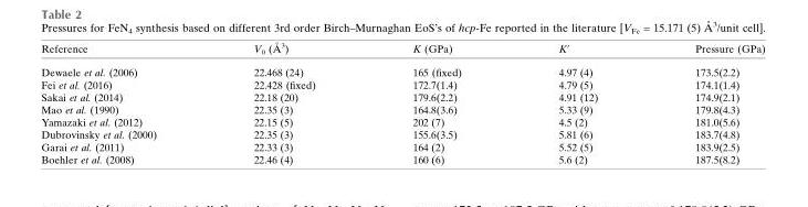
<table><thead><tr><td>Reference</td><td>V0 (A˚ 3)</td><td>K (GPa)</td><td>K′</td><td>Pressure (GPa)</td></tr></thead><tbody><tr><td>Dewaele et al. (2006)</td><td>22.468 (24)</td><td>165 (fixed)</td><td>4.97 (4)</td><td>173.5(2.2)</td></tr><tr><td>Fei et al. (2016)</td><td>22.428 (fixed)</td><td>172.7(1.4)</td><td>4.79 (5)</td><td>174.1(1.4)</td></tr><tr><td>Sakai et al. (2014)</td><td>22.18 (20)</td><td>179.6(2.2)</td><td>4.91 (12)</td><td>174.9(2.1)</td></tr><tr><td>Mao et al. (1990)</td><td>22.35 (3)</td><td>164.8(3.6)</td><td>5.33 (9)</td><td>179.8(4.3)</td></tr><tr><td>Yamazaki et al. (2012)</td><td>22.15 (5)</td><td>202 (7)</td><td>4.5 (2)</td><td>181.0(5.6)</td></tr><tr><td>Dubrovinsky et al. (2000)</td><td>22.35 (3)</td><td>155.6(3.5)</td><td>5.81 (6)</td><td>183.7(4.8)</td></tr><tr><td>Garai et al. (2011)</td><td>22.33 (3)</td><td>164 (2)</td><td>5.52 (5)</td><td>183.9(2.5)</td></tr><tr><td>Boehler et al. (2008)</td><td>22.46 (4)</td><td>160 (6)</td><td>5.6 (2)</td><td>187.5(8.2)</td></tr></tbody></table>